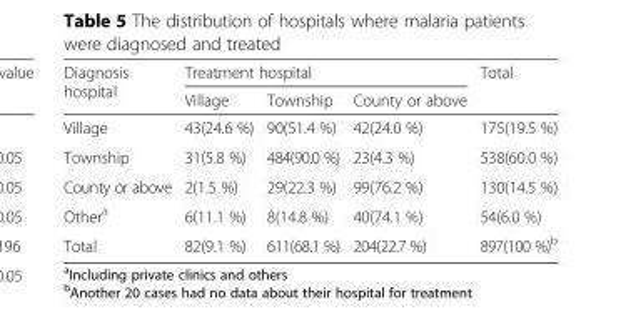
<table><thead><tr><td rowspan="2">Diagnosis hospital</td><td colspan="3">Treatment hospital</td><td rowspan="2">Total</td></tr><tr><td>Village</td><td>Township</td><td>County or above</td></tr></thead><tbody><tr><td>Village</td><td>43(24.6 %)</td><td>90(51.4 %)</td><td>42(24.0 %)</td><td>175(19.5 %)</td></tr><tr><td>Township</td><td>31(5.8 %)</td><td>484(90.0 %)</td><td>23(4.3 %)</td><td>538(60.0 %)</td></tr><tr><td>County or above</td><td>2(1.5 %)</td><td>29(22.3 %)</td><td>99(76.2 %)</td><td>130(14.5 %)</td></tr><tr><td>Other<sup>a</sup></td><td>6(11.1 %)</td><td>8(14.8 %)</td><td>40(74.1 %)</td><td>54(6.0 %)</td></tr><tr><td>Total</td><td>82(9.1 %)</td><td>611(68.1 %)</td><td>204(22.7 %)</td><td>897(100 %)<sup>b</sup></td></tr></tbody></table>